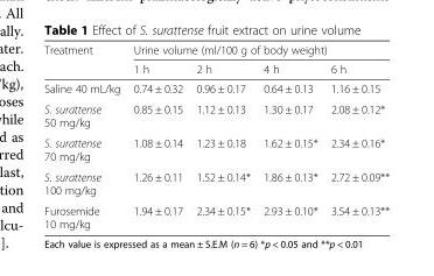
<table><thead><tr><td rowspan="2">Treatment</td><td colspan="4">Urine volume (ml/100 g of body weight)</td></tr><tr><td>1 h</td><td>2 h</td><td>4 h</td><td>6 h</td></tr></thead><tbody><tr><td>Saline 40 mL/kg</td><td>0.74 ± 0.32</td><td>0.96 ± 0.17</td><td>0.64 ± 0.13</td><td>1.16 ± 0.15</td></tr><tr><td>S. surattense 50 mg/kg</td><td>0.85 ± 0.15</td><td>1.12 ± 0.13</td><td>1.30 ± 0.17</td><td>2.08 ± 0.12*</td></tr><tr><td>S. surattense 70 mg/kg</td><td>1.08 ± 0.14</td><td>1.23 ± 0.18</td><td>1.62 ± 0.15*</td><td>2.34 ± 0.16*</td></tr><tr><td>S. surattense 100 mg/kg</td><td>1.26 ± 0.11</td><td>1.52 ± 0.14*</td><td>1.86 ± 0.13*</td><td>2.72 ± 0.09**</td></tr><tr><td>Furosemide 10 mg/kg</td><td>1.94 ± 0.17</td><td>2.34 ± 0.15*</td><td>2.93 ± 0.10*</td><td>3.54 ± 0.13**</td></tr></tbody></table>